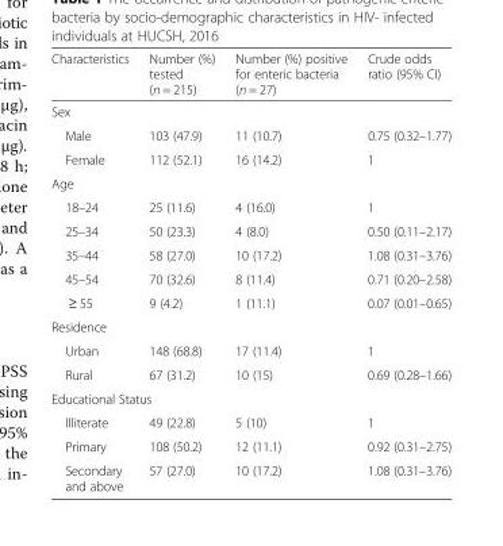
<table><thead><tr><td>Characteristics</td><td>Number (%) tested (n = 215)</td><td>Number (%) positive for enteric bacteria (n = 27)</td><td>Crude odds ratio (95% CI)</td></tr></thead><tbody><tr><td colspan="4">Sex</td></tr><tr><td>Male</td><td>103 (47.9)</td><td>11 (10.7)</td><td>0.75 (0.32–1.77)</td></tr><tr><td>Female</td><td>112 (52.1)</td><td>16 (14.2)</td><td>1</td></tr><tr><td colspan="4">Age</td></tr><tr><td>18–24</td><td>25 (11.6)</td><td>4 (16.0)</td><td>1</td></tr><tr><td>25–34</td><td>50 (23.3)</td><td>4 (8.0)</td><td>0.50 (0.11–2.17)</td></tr><tr><td>35–44</td><td>58 (27.0)</td><td>10 (17.2)</td><td>1.08 (0.31–3.76)</td></tr><tr><td>45–54</td><td>70 (32.6)</td><td>8 (11.4)</td><td>0.71 (0.20–2.58)</td></tr><tr><td>≥ 55</td><td>9 (4.2)</td><td>1 (11.1)</td><td>0.07 (0.01–0.65)</td></tr><tr><td colspan="4">Residence</td></tr><tr><td>Urban</td><td>148 (68.8)</td><td>17 (11.4)</td><td>1</td></tr><tr><td>Rural</td><td>67 (31.2)</td><td>10 (15)</td><td>0.69 (0.28–1.66)</td></tr><tr><td colspan="4">Educational Status</td></tr><tr><td>Illiterate</td><td>49 (22.8)</td><td>5 (10)</td><td>1</td></tr><tr><td>Primary</td><td>108 (50.2)</td><td>12 (11.1)</td><td>0.92 (0.31–2.75)</td></tr><tr><td>Secondary and above</td><td>57 (27.0)</td><td>10 (17.2)</td><td>1.08 (0.31–3.76)</td></tr></tbody></table>